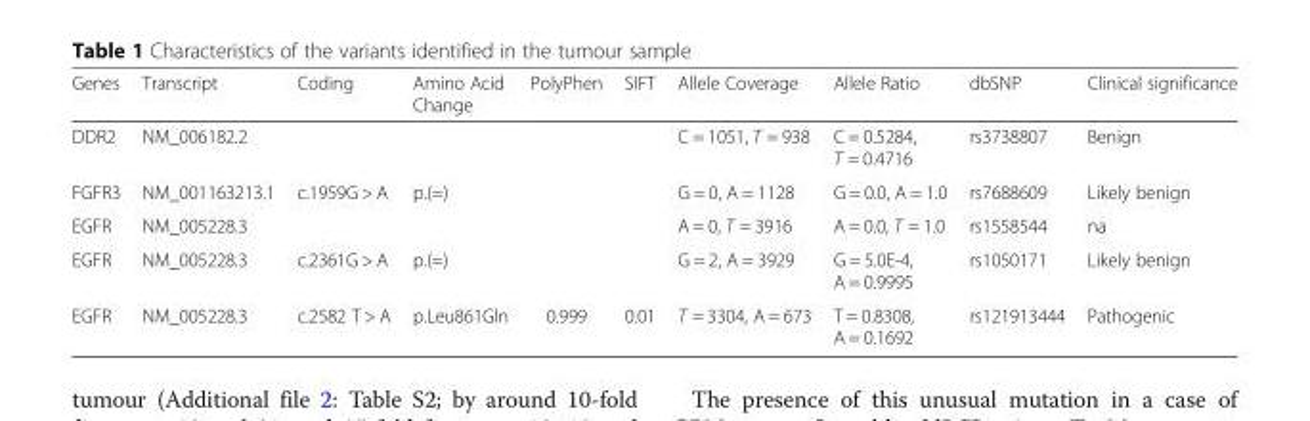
<table><thead><tr><td>Genes</td><td>Transcript</td><td>Coding</td><td>Amino Acid Change</td><td>PolyPhen</td><td>SIFT</td><td>Allele Coverage</td><td>Allele Ratio</td><td>dbSNP</td><td>Clinical significance</td></tr></thead><tbody><tr><td>DDR2</td><td>NM_006182.2</td><td></td><td></td><td></td><td></td><td>C = 1051, T = 938</td><td>C = 0.5284, T = 0.4716</td><td>rs3738807</td><td>Benign</td></tr><tr><td>FGFR3</td><td>NM_001163213.1</td><td>c.1959G &gt; A</td><td>p.(=)</td><td></td><td></td><td>G = 0, A = 1128</td><td>G = 0.0, A = 1.0</td><td>rs7688609</td><td>Likely benign</td></tr><tr><td>EGFR</td><td>NM_005228.3</td><td></td><td></td><td></td><td></td><td>A = 0, T = 3916</td><td>A = 0.0, T = 1.0</td><td>rs1558544</td><td>na</td></tr><tr><td>EGFR</td><td>NM_005228.3</td><td>c.2361G &gt; A</td><td>p.(=)</td><td></td><td></td><td>G = 2, A = 3929</td><td>G = 5.0E-4, A = 0.9995</td><td>rs1050171</td><td>Likely benign</td></tr><tr><td>EGFR</td><td>NM_005228.3</td><td>c.2582 T &gt; A</td><td>p.Leu861Gln</td><td>0.999</td><td>0.01</td><td>T = 3304, A = 673</td><td>T = 0.8308, A = 0.1692</td><td>rs121913444</td><td>Pathogenic</td></tr></tbody></table>